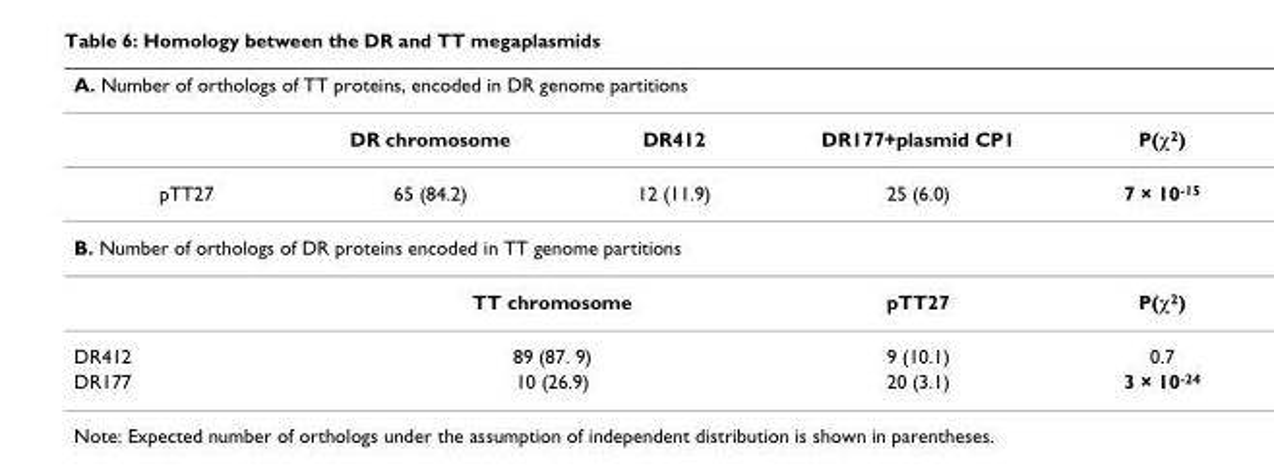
<table><thead><tr><td colspan="5">A. Number of orthologs of TT proteins, encoded in DR genome partitions</td></tr><tr><td></td><td>DR chromosome</td><td>DR412</td><td>DR177+plasmid CP1</td><td>P(χ<sup>2</sup>)</td></tr></thead><tbody><tr><td>pTT27</td><td>65 (84.2)</td><td>12 (11.9)</td><td>25 (6.0)</td><td>7 × 10<sup>-15</sup></td></tr><tr><td colspan="5">B. Number of orthologs of DR proteins encoded in TT genome partitions</td></tr><tr><td></td><td colspan="2">TT chromosome</td><td>pTT27</td><td>P(χ2)</td></tr><tr><td>DR412</td><td colspan="2">89 (87. 9)</td><td>9 (10.1)</td><td>0.7</td></tr><tr><td>DR177</td><td colspan="2">10 (26.9)</td><td>20 (3.1)</td><td>3 × 10<sup>-24</sup></td></tr></tbody></table>